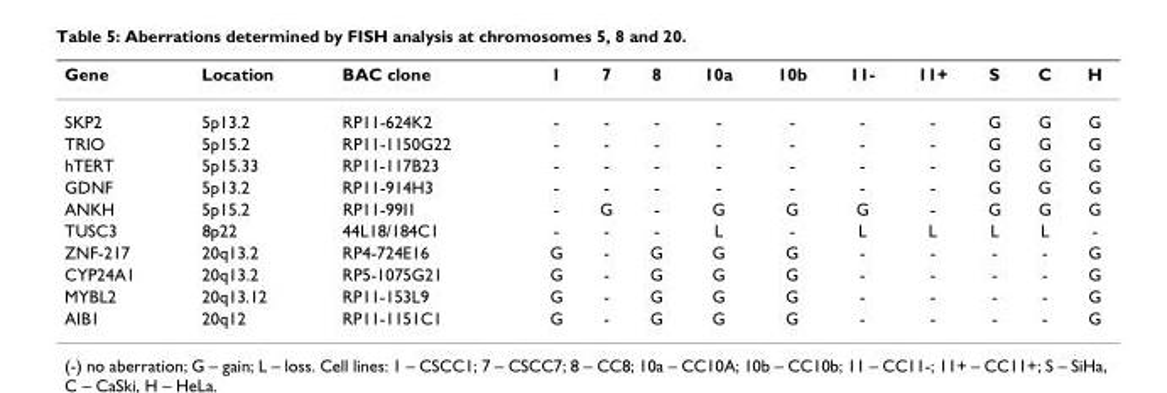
<table><thead><tr><td>Gene</td><td>Location</td><td>BAC clone</td><td>1</td><td>7</td><td>8</td><td>10a</td><td>10b</td><td>11-</td><td>11+</td><td>S</td><td>C</td><td>H</td></tr></thead><tbody><tr><td>SKP2</td><td>5p13.2</td><td>RP11-624K2</td><td>-</td><td>-</td><td>-</td><td>-</td><td>-</td><td>-</td><td>-</td><td>G</td><td>G</td><td>G</td></tr><tr><td>TRIO</td><td>5p15.2</td><td>RP11-1150G22</td><td>-</td><td>-</td><td>-</td><td>-</td><td>-</td><td>-</td><td>-</td><td>G</td><td>G</td><td>G</td></tr><tr><td>hTERT</td><td>5p15.33</td><td>RP11-117B23</td><td>-</td><td>-</td><td>-</td><td>-</td><td>-</td><td>-</td><td>-</td><td>G</td><td>G</td><td>G</td></tr><tr><td>GDNF</td><td>5p13.2</td><td>RP11-914H3</td><td>-</td><td>-</td><td>-</td><td>-</td><td>-</td><td>-</td><td>-</td><td>G</td><td>G</td><td>G</td></tr><tr><td>ANKH</td><td>5p15.2</td><td>RP11-99I1</td><td>-</td><td>G</td><td>-</td><td>G</td><td>G</td><td>G</td><td>-</td><td>G</td><td>G</td><td>G</td></tr><tr><td>TUSC3</td><td>8p22</td><td>44L18/184C1</td><td>-</td><td>-</td><td>-</td><td>L</td><td>-</td><td>L</td><td>L</td><td>L</td><td>L</td><td>-</td></tr><tr><td>ZNF-217</td><td>20q13.2</td><td>RP4-724E16</td><td>G</td><td>-</td><td>G</td><td>G</td><td>G</td><td>-</td><td>-</td><td>-</td><td>-</td><td>G</td></tr><tr><td>CYP24A1</td><td>20q13.2</td><td>RP5-1075G21</td><td>G</td><td>-</td><td>G</td><td>G</td><td>G</td><td>-</td><td>-</td><td>-</td><td>-</td><td>G</td></tr><tr><td>MYBL2</td><td>20q13.12</td><td>RP11-153L9</td><td>G</td><td>-</td><td>G</td><td>G</td><td>G</td><td>-</td><td>-</td><td>-</td><td>-</td><td>G</td></tr><tr><td>AIB1</td><td>20q12</td><td>RP11-1151C1</td><td>G</td><td>-</td><td>G</td><td>G</td><td>G</td><td>-</td><td>-</td><td>-</td><td>-</td><td>G</td></tr></tbody></table>